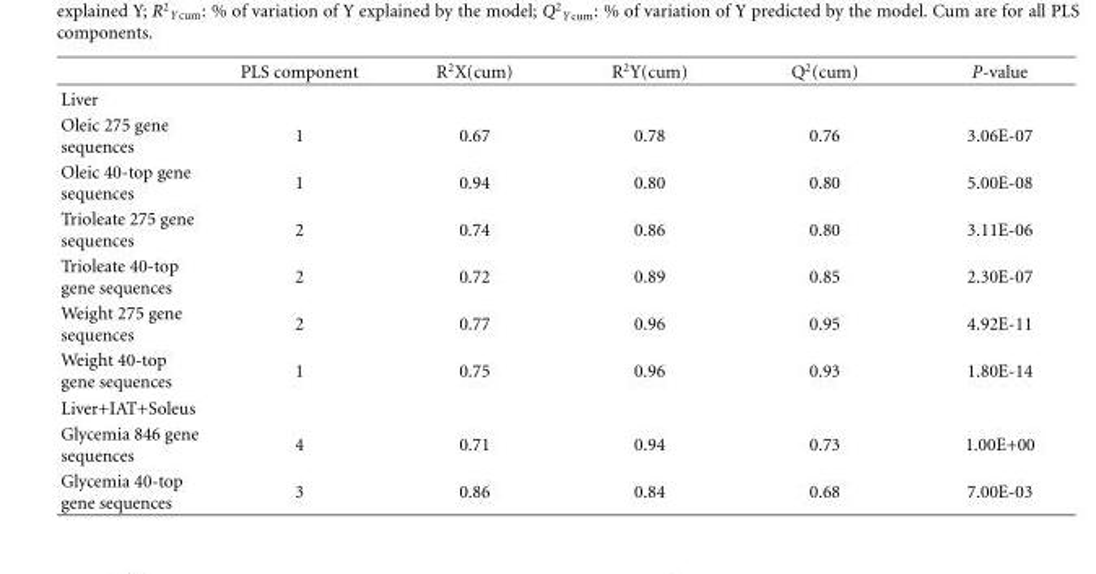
<table><thead><tr><td></td><td>PLS component</td><td>R<sup>2</sup>X(cum)</td><td>R<sup>2</sup>Y(cum)</td><td>Q<sup>2</sup>(cum)</td><td>P-value</td></tr></thead><tbody><tr><td colspan="6">Liver</td></tr><tr><td>Oleic 275 gene sequences</td><td>1</td><td>0.67</td><td>0.78</td><td>0.76</td><td>3.06E-07</td></tr><tr><td>Oleic 40-top gene sequences</td><td>1</td><td>0.94</td><td>0.80</td><td>0.80</td><td>5.00E-08</td></tr><tr><td>Trioleate 275 gene sequences</td><td>2</td><td>0.74</td><td>0.86</td><td>0.80</td><td>3.11E-06</td></tr><tr><td>Trioleate 40-top gene sequences</td><td>2</td><td>0.72</td><td>0.89</td><td>0.85</td><td>2.30E-07</td></tr><tr><td>Weight 275 gene sequences</td><td>2</td><td>0.77</td><td>0.96</td><td>0.95</td><td>4.92E-11</td></tr><tr><td>Weight 40-top gene sequences</td><td>1</td><td>0.75</td><td>0.96</td><td>0.93</td><td>1.80E-14</td></tr><tr><td colspan="6">Liver+IAT+Soleus</td></tr><tr><td>Glycemia 846 gene sequences</td><td>4</td><td>0.71</td><td>0.94</td><td>0.73</td><td>1.00E+00</td></tr><tr><td>Glycemia 40-top gene sequences</td><td>3</td><td>0.86</td><td>0.84</td><td>0.68</td><td>7.00E-03</td></tr></tbody></table>